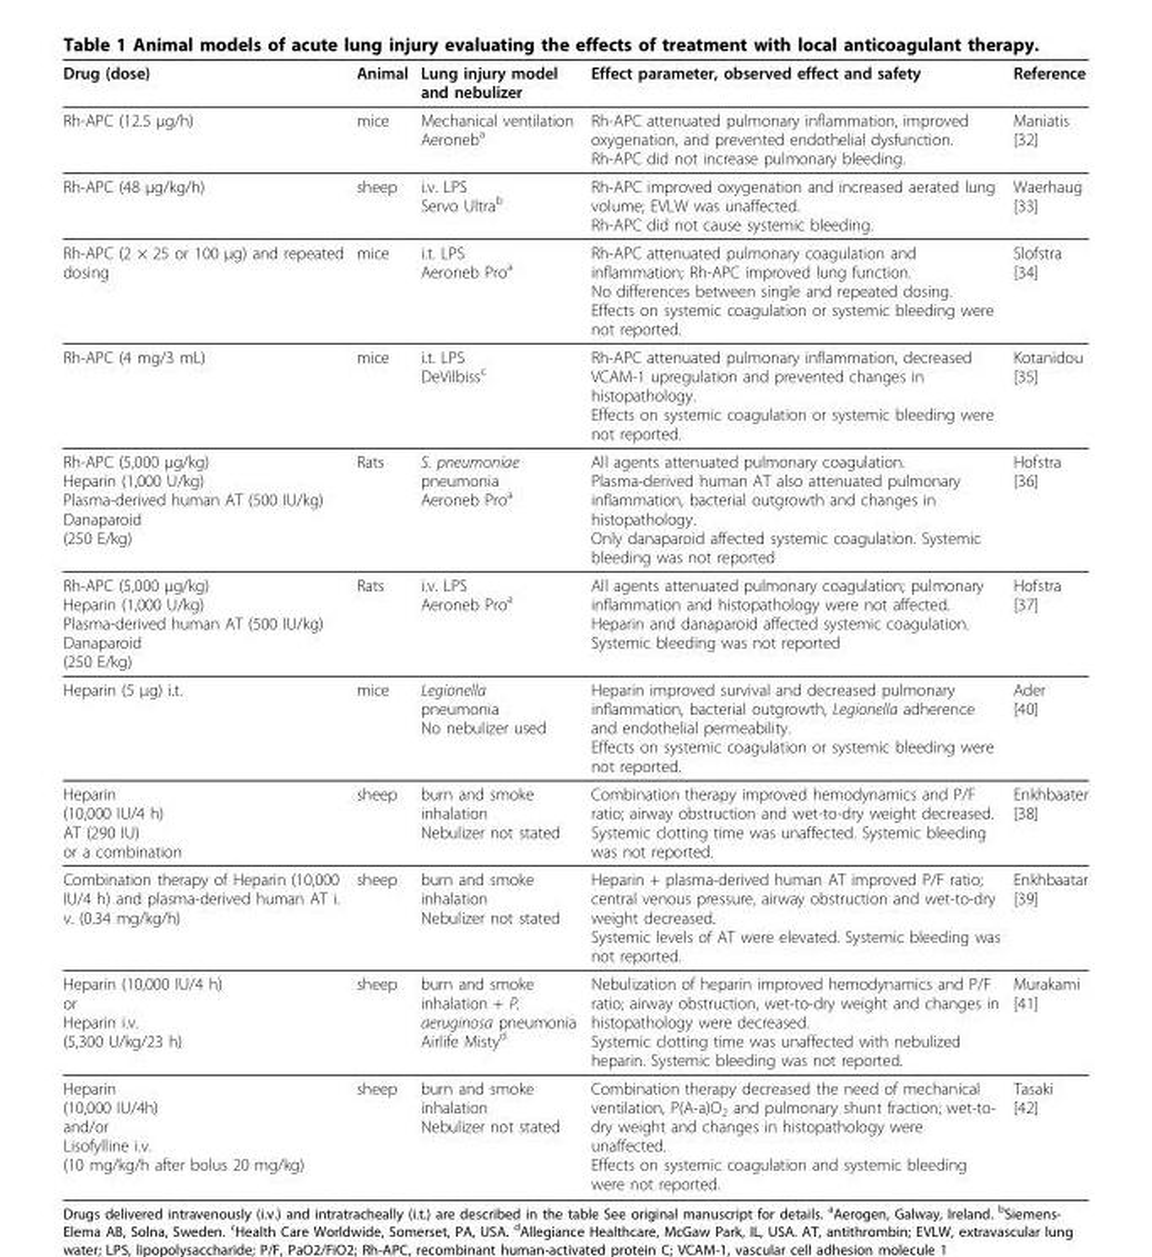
<table><thead><tr><td>Drug (dose)</td><td>Animal</td><td>Lung injury model and nebulizer</td><td>Effect parameter, observed effect and safety</td><td>Reference</td></tr></thead><tbody><tr><td>Rh-APC (12.5 μg/h)</td><td>mice</td><td>Mechanical ventilation Aeroneb<sup>a</sup></td><td>Rh-APC attenuated pulmonary inflammation, improved oxygenation, and prevented endothelial dysfunction. Rh-APC did not increase pulmonary bleeding.</td><td>Maniatis [32]</td></tr><tr><td>Rh-APC (48 μg/kg/h)</td><td>sheep</td><td>i.v. LPS Servo Ultra<sup>b</sup></td><td>Rh-APC improved oxygenation and increased aerated lung volume; EVLW was unaffected. Rh-APC did not cause systemic bleeding.</td><td>Waerhaug [33]</td></tr><tr><td>Rh-APC (2 × 25 or 100 μg) and repeated dosing</td><td>mice</td><td>i.t. LPS Aeroneb Pro<sup>a</sup></td><td>Rh-APC attenuated pulmonary coagulation and inflammation; Rh-APC improved lung function. No differences between single and repeated dosing. Effects on systemic coagulation or systemic bleeding were not reported.</td><td>Slofstra [34]</td></tr><tr><td>Rh-APC (4 mg/3 mL)</td><td>mice</td><td>i.t. LPS DeVilbiss<sup>c</sup></td><td>Rh-APC attenuated pulmonary inflammation, decreased VCAM-1 upregulation and prevented changes in histopathology. Effects on systemic coagulation or systemic bleeding were not reported.</td><td>Kotanidou [35]</td></tr><tr><td>Rh-APC (5,000 μg/kg) Heparin (1,000 U/kg) Plasma-derived human AT (500 IU/kg) Danaparoid (250 E/kg)</td><td>Rats</td><td>S. pneumoniae pneumonia Aeroneb Pro<sup>a</sup></td><td>All agents attenuated pulmonary coagulation. Plasma-derived human AT also attenuated pulmonary inflammation, bacterial outgrowth and changes in histopathology. Only danaparoid affected systemic coagulation. Systemic bleeding was not reported</td><td>Hofstra [36]</td></tr><tr><td>Rh-APC (5,000 μg/kg) Heparin (1,000 U/kg) Plasma-derived human AT (500 IU/kg) Danaparoid (250 E/kg)</td><td>Rats</td><td>i.v. LPS Aeroneb Pro<sup>a</sup></td><td>All agents attenuated pulmonary coagulation; pulmonary inflammation and histopathology were not affected. Heparin and danaparoid affected systemic coagulation. Systemic bleeding was not reported</td><td>Hofstra [37]</td></tr><tr><td>Heparin (5 μg) i.t.</td><td>mice</td><td>Legionella pneumonia No nebulizer used</td><td>Heparin improved survival and decreased pulmonary inflammation, bacterial outgrowth, Legionella adherence and endothelial permeability. Effects on systemic coagulation or systemic bleeding were not reported.</td><td>Ader [40]</td></tr><tr><td>Heparin (10,000 IU/4 h) AT (290 IU) or a combination</td><td>sheep</td><td>burn and smoke inhalation Nebulizer not stated</td><td>Combination therapy improved hemodynamics and P/F ratio; airway obstruction and wet-to-dry weight decreased. Systemic clotting time was unaffected. Systemic bleeding was not reported.</td><td>Enkhbaater [38]</td></tr><tr><td>Combination therapy of Heparin (10,000 IU/4 h) and plasma-derived human AT i. v. (0.34 mg/kg/h)</td><td>sheep</td><td>burn and smoke inhalation Nebulizer not stated</td><td>Heparin + plasma-derived human AT improved P/F ratio; central venous pressure, airway obstruction and wet-to-dry weight decreased. Systemic levels of AT were elevated. Systemic bleeding was not reported.</td><td>Enkhbaatar [39]</td></tr><tr><td>Heparin (10,000 IU/4 h) or Heparin i.v. (5,300 U/kg/23 h)</td><td>sheep</td><td>burn and smoke inhalation + P. aeruginosa pneumonia Airlife Misty<sup>d</sup></td><td>Nebulization of heparin improved hemodynamics and P/F ratio; airway obstruction, wet-to-dry weight and changes in histopathology were decreased. Systemic clotting time was unaffected with nebulized heparin. Systemic bleeding was not reported.</td><td>Murakami [41]</td></tr><tr><td>Heparin (10,000 IU/4h) and/or Lisofylline i.v. (10 mg/kg/h after bolus 20 mg/kg)</td><td>sheep</td><td>burn and smoke inhalation Nebulizer not stated</td><td>Combination therapy decreased the need of mechanical ventilation, P(A-a)O<sub>2</sub> and pulmonary shunt fraction; wet-to- dry weight and changes in histopathology were unaffected. Effects on systemic coagulation and systemic bleeding were not reported.</td><td>Tasaki [42]</td></tr></tbody></table>